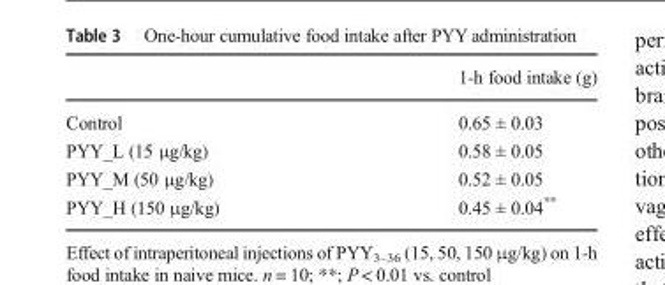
<table><thead><tr><td></td><td>1-h food intake (g)</td></tr></thead><tbody><tr><td>Control</td><td>0.65 ± 0.03</td></tr><tr><td>PYY_L (15 μg/kg)</td><td>0.58 ± 0.05</td></tr><tr><td>PYY_M (50 μg/kg)</td><td>0.52 ± 0.05</td></tr><tr><td>PYY_H (150 μg/kg)</td><td>0.45 ± 0.04**</td></tr></tbody></table>